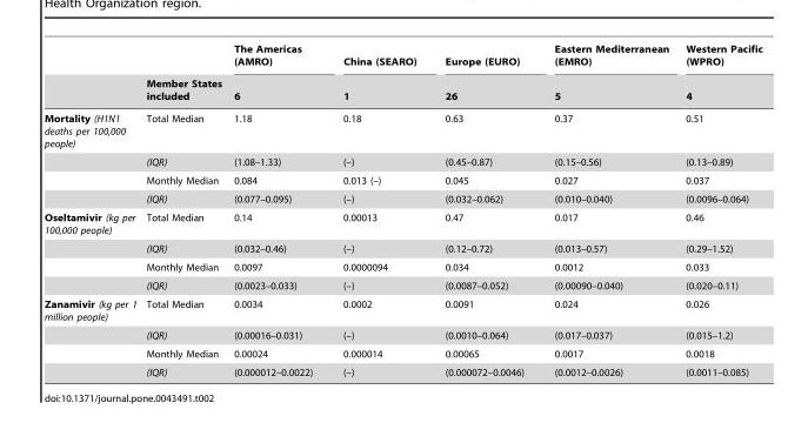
<table><thead><tr><td rowspan="2"></td><td rowspan="2">Member States included</td><td rowspan="2">The Americas (AMRO) 6</td><td rowspan="2">China (SEARO) 1</td><td rowspan="2">Europe (EURO) 26</td><td rowspan="2">Eastern Mediterranean (EMRO) 5</td><td rowspan="2">Western Pacific (WPRO) 4</td></tr><tr></tr></thead><tbody><tr><td rowspan="4">Mortality (H1N1 deaths per 100,000 people)</td><td>Total Median</td><td>1.18</td><td>0.18</td><td>0.63</td><td>0.37</td><td>0.51</td></tr><tr><td>(IQR)</td><td>(1.08–1.33)</td><td>(–)</td><td>(0.45–0.87)</td><td>(0.15–0.56)</td><td>(0.13–0.89)</td></tr><tr><td>Monthly Median</td><td>0.084</td><td>0.013 (–)</td><td>0.045</td><td>0.027</td><td>0.037</td></tr><tr><td>(IQR)</td><td>(0.077–0.095)</td><td>(–)</td><td>(0.032–0.062)</td><td>(0.010–0.040)</td><td>(0.0096–0.064)</td></tr><tr><td rowspan="4">Oseltamivir (kg per 100,000 people)</td><td>Total Median</td><td>0.14</td><td>0.00013</td><td>0.47</td><td>0.017</td><td>0.46</td></tr><tr><td>(IQR)</td><td>(0.032–0.46)</td><td>(–)</td><td>(0.12–0.72)</td><td>(0.013–0.57)</td><td>(0.29–1.52)</td></tr><tr><td>Monthly Median</td><td>0.0097</td><td>0.0000094</td><td>0.034</td><td>0.0012</td><td>0.033</td></tr><tr><td>(IQR)</td><td>(0.0023–0.033)</td><td>(–)</td><td>(0.0087–0.052)</td><td>(0.00090–0.040)</td><td>(0.020–0.11)</td></tr><tr><td rowspan="4">Zanamivir (kg per 1 million people)</td><td>Total Median</td><td>0.0034</td><td>0.0002</td><td>0.0091</td><td>0.024</td><td>0.026</td></tr><tr><td>(IQR)</td><td>(0.00016–0.031)</td><td>(–)</td><td>(0.0010–0.064)</td><td>(0.017–0.037)</td><td>(0.015–1.2)</td></tr><tr><td>Monthly Median</td><td>0.00024</td><td>0.000014</td><td>0.00065</td><td>0.0017</td><td>0.0018</td></tr><tr><td>(IQR)</td><td>(0.000012–0.0022)</td><td>(–)</td><td>(0.000072–0.0046)</td><td>(0.0012–0.0026)</td><td>(0.0011–0.085)</td></tr></tbody></table>